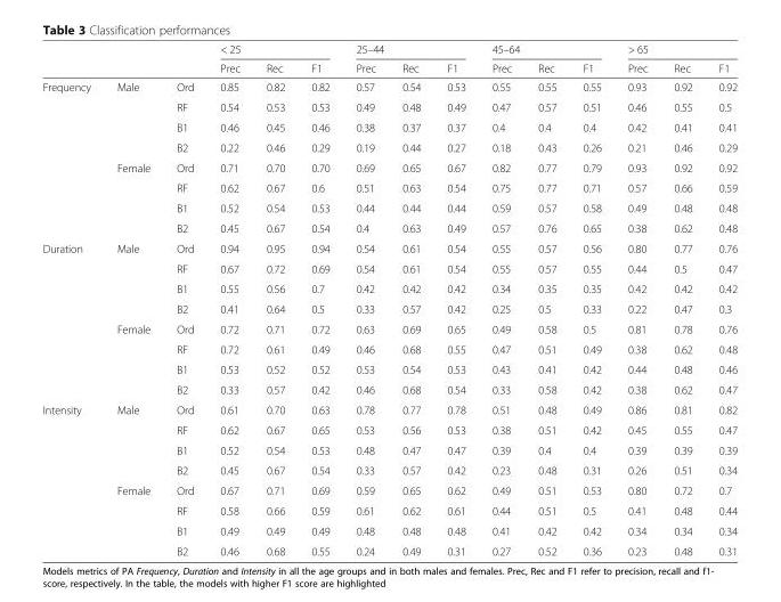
<table><thead><tr><td rowspan="2"></td><td rowspan="2"></td><td rowspan="2"></td><td colspan="3">&lt; 25</td><td colspan="3">25–44</td><td colspan="3">45–64</td><td colspan="3">&gt; 65</td></tr><tr><td>Prec</td><td>Rec</td><td>F1</td><td>Prec</td><td>Rec</td><td>F1</td><td>Prec</td><td>Rec</td><td>F1</td><td>Prec</td><td>Rec</td><td>F1</td></tr></thead><tbody><tr><td rowspan="8">Frequency</td><td rowspan="4">Male</td><td>Ord</td><td>0.85</td><td>0.82</td><td>0.82</td><td>0.57</td><td>0.54</td><td>0.53</td><td>0.55</td><td>0.55</td><td>0.55</td><td>0.93</td><td>0.92</td><td>0.92</td></tr><tr><td>RF</td><td>0.54</td><td>0.53</td><td>0.53</td><td>0.49</td><td>0.48</td><td>0.49</td><td>0.47</td><td>0.57</td><td>0.51</td><td>0.46</td><td>0.55</td><td>0.5</td></tr><tr><td>B1</td><td>0.46</td><td>0.45</td><td>0.46</td><td>0.38</td><td>0.37</td><td>0.37</td><td>0.4</td><td>0.4</td><td>0.4</td><td>0.42</td><td>0.41</td><td>0.41</td></tr><tr><td>B2</td><td>0.22</td><td>0.46</td><td>0.29</td><td>0.19</td><td>0.44</td><td>0.27</td><td>0.18</td><td>0.43</td><td>0.26</td><td>0.21</td><td>0.46</td><td>0.29</td></tr><tr><td rowspan="4">Female</td><td>Ord</td><td>0.71</td><td>0.70</td><td>0.70</td><td>0.69</td><td>0.65</td><td>0.67</td><td>0.82</td><td>0.77</td><td>0.79</td><td>0.93</td><td>0.92</td><td>0.92</td></tr><tr><td>RF</td><td>0.62</td><td>0.67</td><td>0.6</td><td>0.51</td><td>0.63</td><td>0.54</td><td>0.75</td><td>0.77</td><td>0.71</td><td>0.57</td><td>0.66</td><td>0.59</td></tr><tr><td>B1</td><td>0.52</td><td>0.54</td><td>0.53</td><td>0.44</td><td>0.44</td><td>0.44</td><td>0.59</td><td>0.57</td><td>0.58</td><td>0.49</td><td>0.48</td><td>0.48</td></tr><tr><td>B2</td><td>0.45</td><td>0.67</td><td>0.54</td><td>0.4</td><td>0.63</td><td>0.49</td><td>0.57</td><td>0.76</td><td>0.65</td><td>0.38</td><td>0.62</td><td>0.48</td></tr><tr><td rowspan="8">Duration</td><td rowspan="4">Male</td><td>Ord</td><td>0.94</td><td>0.95</td><td>0.94</td><td>0.54</td><td>0.61</td><td>0.54</td><td>0.55</td><td>0.57</td><td>0.56</td><td>0.80</td><td>0.77</td><td>0.76</td></tr><tr><td>RF</td><td>0.67</td><td>0.72</td><td>0.69</td><td>0.54</td><td>0.61</td><td>0.54</td><td>0.55</td><td>0.57</td><td>0.55</td><td>0.44</td><td>0.5</td><td>0.47</td></tr><tr><td>B1</td><td>0.55</td><td>0.56</td><td>0.7</td><td>0.42</td><td>0.42</td><td>0.42</td><td>0.34</td><td>0.35</td><td>0.35</td><td>0.42</td><td>0.42</td><td>0.42</td></tr><tr><td>B2</td><td>0.41</td><td>0.64</td><td>0.5</td><td>0.33</td><td>0.57</td><td>0.42</td><td>0.25</td><td>0.5</td><td>0.33</td><td>0.22</td><td>0.47</td><td>0.3</td></tr><tr><td rowspan="4">Female</td><td>Ord</td><td>0.72</td><td>0.71</td><td>0.72</td><td>0.63</td><td>0.69</td><td>0.65</td><td>0.49</td><td>0.58</td><td>0.5</td><td>0.81</td><td>0.78</td><td>0.76</td></tr><tr><td>RF</td><td>0.72</td><td>0.61</td><td>0.49</td><td>0.46</td><td>0.68</td><td>0.55</td><td>0.47</td><td>0.51</td><td>0.49</td><td>0.38</td><td>0.62</td><td>0.48</td></tr><tr><td>B1</td><td>0.53</td><td>0.52</td><td>0.52</td><td>0.53</td><td>0.54</td><td>0.53</td><td>0.43</td><td>0.41</td><td>0.42</td><td>0.44</td><td>0.48</td><td>0.46</td></tr><tr><td>B2</td><td>0.33</td><td>0.57</td><td>0.42</td><td>0.46</td><td>0.68</td><td>0.54</td><td>0.33</td><td>0.58</td><td>0.42</td><td>0.38</td><td>0.62</td><td>0.47</td></tr><tr><td rowspan="8">Intensity</td><td rowspan="4">Male</td><td>Ord</td><td>0.61</td><td>0.70</td><td>0.63</td><td>0.78</td><td>0.77</td><td>0.78</td><td>0.51</td><td>0.48</td><td>0.49</td><td>0.86</td><td>0.81</td><td>0.82</td></tr><tr><td>RF</td><td>0.62</td><td>0.67</td><td>0.65</td><td>0.53</td><td>0.56</td><td>0.53</td><td>0.38</td><td>0.51</td><td>0.42</td><td>0.45</td><td>0.55</td><td>0.47</td></tr><tr><td>B1</td><td>0.52</td><td>0.54</td><td>0.53</td><td>0.48</td><td>0.47</td><td>0.47</td><td>0.39</td><td>0.4</td><td>0.4</td><td>0.39</td><td>0.39</td><td>0.39</td></tr><tr><td>B2</td><td>0.45</td><td>0.67</td><td>0.54</td><td>0.33</td><td>0.57</td><td>0.42</td><td>0.23</td><td>0.48</td><td>0.31</td><td>0.26</td><td>0.51</td><td>0.34</td></tr><tr><td rowspan="4">Female</td><td>Ord</td><td>0.67</td><td>0.71</td><td>0.69</td><td>0.59</td><td>0.65</td><td>0.62</td><td>0.49</td><td>0.51</td><td>0.53</td><td>0.80</td><td>0.72</td><td>0.7</td></tr><tr><td>RF</td><td>0.58</td><td>0.66</td><td>0.59</td><td>0.61</td><td>0.62</td><td>0.61</td><td>0.44</td><td>0.51</td><td>0.5</td><td>0.41</td><td>0.48</td><td>0.44</td></tr><tr><td>B1</td><td>0.49</td><td>0.49</td><td>0.49</td><td>0.48</td><td>0.48</td><td>0.48</td><td>0.41</td><td>0.42</td><td>0.42</td><td>0.34</td><td>0.34</td><td>0.34</td></tr><tr><td>B2</td><td>0.46</td><td>0.68</td><td>0.55</td><td>0.24</td><td>0.49</td><td>0.31</td><td>0.27</td><td>0.52</td><td>0.36</td><td>0.23</td><td>0.48</td><td>0.31</td></tr></tbody></table>